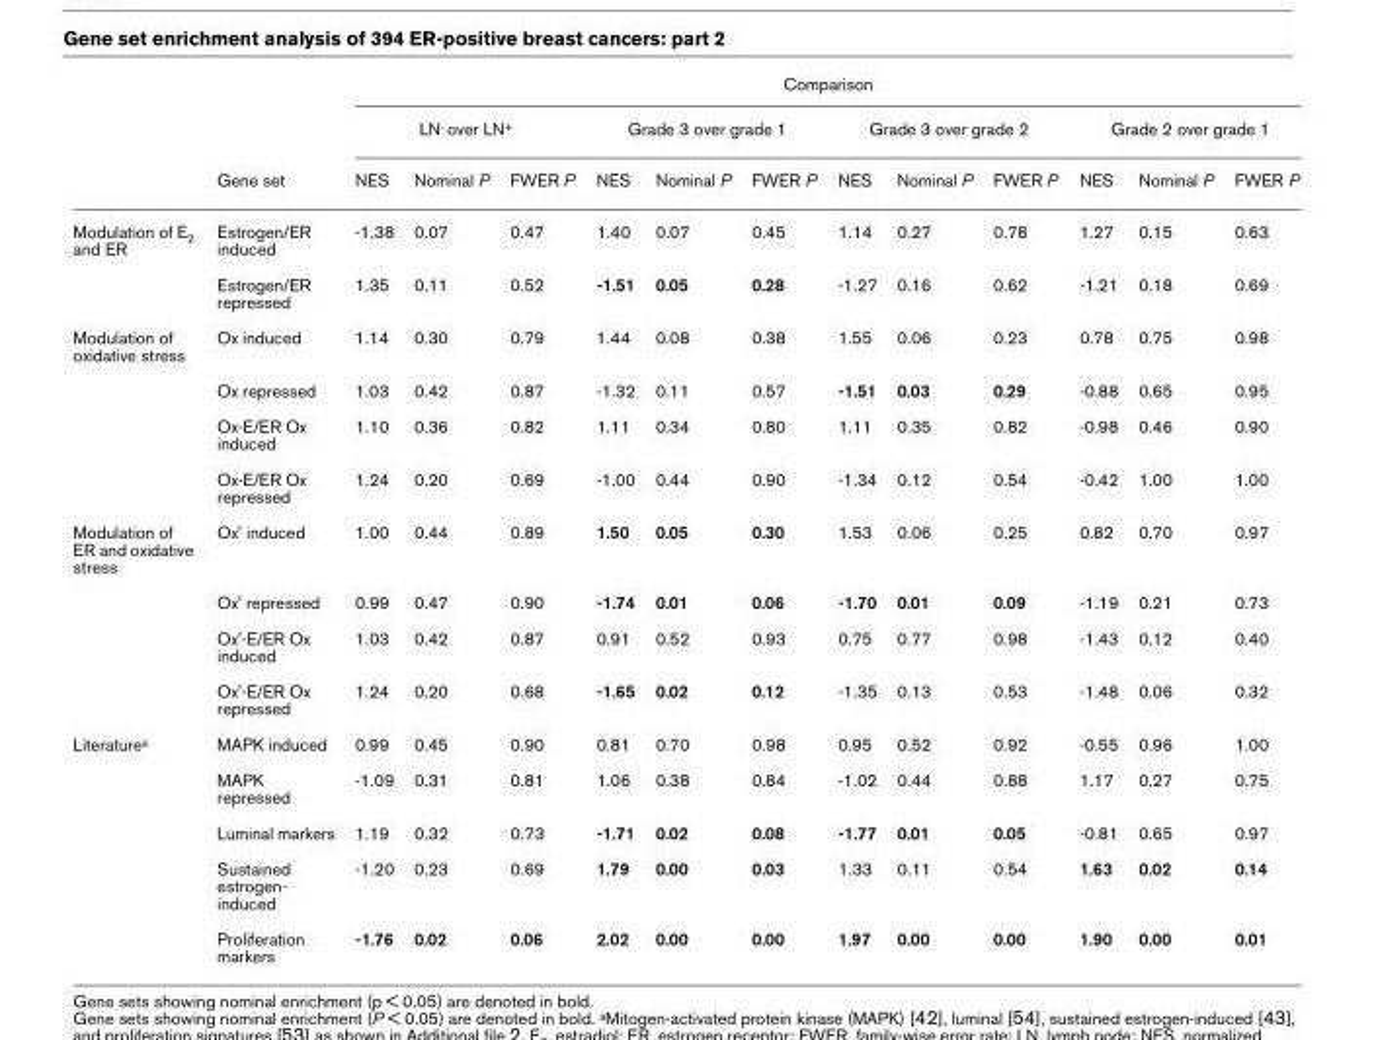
<table><thead><tr><td rowspan="3"></td><td rowspan="3">Gene set</td><td colspan="12">Comparison</td></tr><tr><td colspan="3">LN<sup>-</sup> over LN<sup>+</sup></td><td colspan="3">Grade 3 over grade 1</td><td colspan="3">Grade 3 over grade 2</td><td colspan="3">Grade 2 over grade 1</td></tr><tr><td>NES</td><td>Nominal P</td><td>FWER P</td><td>NES</td><td>Nominal P</td><td>FWER P</td><td>NES</td><td>Nominal P</td><td>FWER P</td><td>NES</td><td>Nominal P</td><td>FWER P</td></tr></thead><tbody><tr><td rowspan="2">Modulation of E<sub>2</sub> and ER</td><td>Estrogen/ER induced</td><td>-1.38</td><td>0.07</td><td>0.47</td><td>1.40</td><td>0.07</td><td>0.45</td><td>1.14</td><td>0.27</td><td>0.78</td><td>1.27</td><td>0.15</td><td>0.63</td></tr><tr><td>Estrogen/ER repressed</td><td>1.35</td><td>0.11</td><td>0.52</td><td>-1.51</td><td>0.05</td><td>0.28</td><td>-1.27</td><td>0.16</td><td>0.62</td><td>-1.21</td><td>0.18</td><td>0.69</td></tr><tr><td rowspan="4">Modulation of oxidative stress</td><td>Ox induced</td><td>1.14</td><td>0.30</td><td>0.79</td><td>1.44</td><td>0.08</td><td>0.38</td><td>1.55</td><td>0.06</td><td>0.23</td><td>0.78</td><td>0.75</td><td>0.98</td></tr><tr><td>Ox repressed</td><td>1.03</td><td>0.42</td><td>0.87</td><td>-1.32</td><td>0.11</td><td>0.57</td><td>-1.51</td><td>0.03</td><td>0.29</td><td>-0.88</td><td>0.65</td><td>0.95</td></tr><tr><td>Ox-E/ER Ox induced</td><td>1.10</td><td>0.36</td><td>0.82</td><td>1.11</td><td>0.34</td><td>0.80</td><td>1.11</td><td>0.35</td><td>0.82</td><td>-0.98</td><td>0.46</td><td>0.90</td></tr><tr><td>Ox-E/ER Ox repressed</td><td>1.24</td><td>0.20</td><td>0.69</td><td>-1.00</td><td>0.44</td><td>0.90</td><td>-1.34</td><td>0.12</td><td>0.54</td><td>-0.42</td><td>1.00</td><td>1.00</td></tr><tr><td rowspan="4">Modulation of ER and oxidative stress</td><td>Ox&#x27; induced</td><td>1.00</td><td>0.44</td><td>0.89</td><td>1.50</td><td>0.05</td><td>0.30</td><td>1.53</td><td>0.06</td><td>0.25</td><td>0.82</td><td>0.70</td><td>0.97</td></tr><tr><td>Ox&#x27; repressed</td><td>0.99</td><td>0.47</td><td>0.90</td><td>-1.74</td><td>0.01</td><td>0.06</td><td>-1.70</td><td>0.01</td><td>0.09</td><td>-1.19</td><td>0.21</td><td>0.73</td></tr><tr><td>Ox&#x27;-E/ER Ox induced</td><td>1.03</td><td>0.42</td><td>0.87</td><td>0.91</td><td>0.52</td><td>0.93</td><td>0.75</td><td>0.77</td><td>0.98</td><td>-1.43</td><td>0.12</td><td>0.40</td></tr><tr><td>Ox&#x27;-E/ER Ox repressed</td><td>1.24</td><td>0.20</td><td>0.68</td><td>-1.65</td><td>0.02</td><td>0.12</td><td>-1.35</td><td>0.13</td><td>0.53</td><td>-1.48</td><td>0.06</td><td>0.32</td></tr><tr><td rowspan="5">Literature<sup>a</sup></td><td>MAPK induced</td><td>0.99</td><td>0.45</td><td>0.90</td><td>0.81</td><td>0.70</td><td>0.98</td><td>0.95</td><td>0.52</td><td>0.92</td><td>-0.55</td><td>0.96</td><td>1.00</td></tr><tr><td>MAPK repressed</td><td>-1.09</td><td>0.31</td><td>0.81</td><td>1.06</td><td>0.38</td><td>0.84</td><td>-1.02</td><td>0.44</td><td>0.88</td><td>1.17</td><td>0.27</td><td>0.75</td></tr><tr><td>Luminal markers</td><td>1.19</td><td>0.32</td><td>0.73</td><td>-1.71</td><td>0.02</td><td>0.08</td><td>-1.77</td><td>0.01</td><td>0.05</td><td>-0.81</td><td>0.65</td><td>0.97</td></tr><tr><td>Sustained estrogen- induced</td><td>-1.20</td><td>0.23</td><td>0.69</td><td>1.79</td><td>0.00</td><td>0.03</td><td>1.33</td><td>0.11</td><td>0.54</td><td>1.63</td><td>0.02</td><td>0.14</td></tr><tr><td>Proliferation markers</td><td>-1.76</td><td>0.02</td><td>0.06</td><td>2.02</td><td>0.00</td><td>0.00</td><td>1.97</td><td>0.00</td><td>0.00</td><td>1.90</td><td>0.00</td><td>0.01</td></tr></tbody></table>